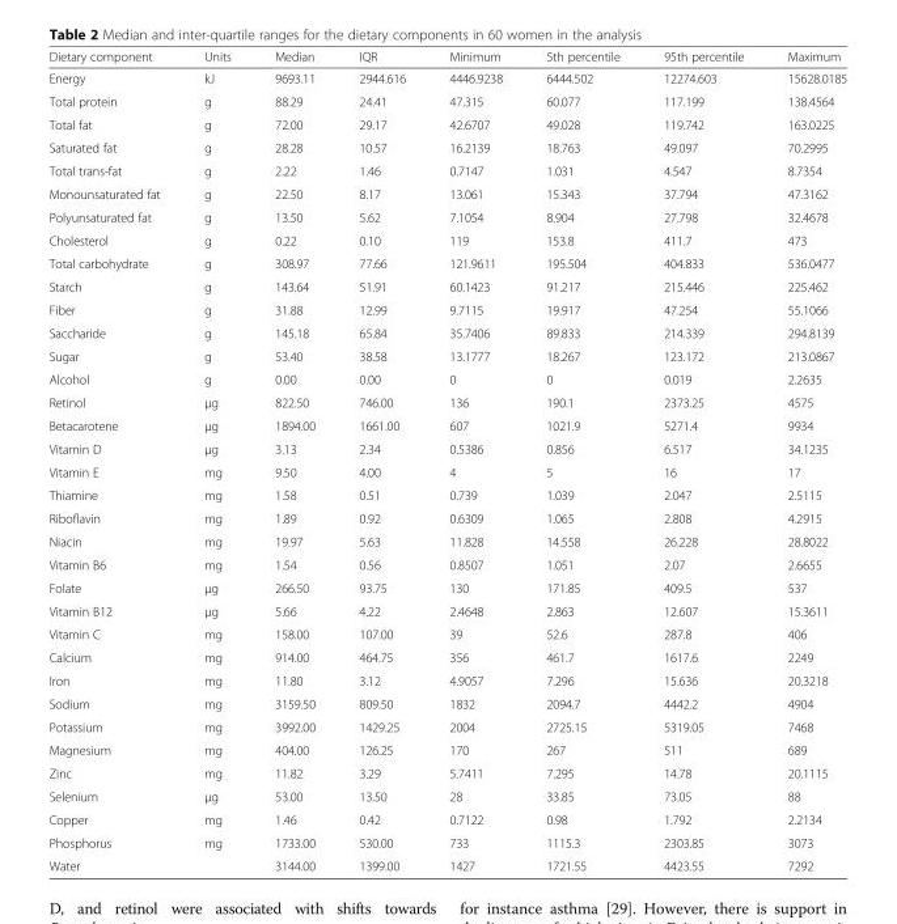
<table><thead><tr><td>Dietary component</td><td>Units</td><td>Median</td><td>IQR</td><td>Minimum</td><td>5th percentile</td><td>95th percentile</td><td>Maximum</td></tr></thead><tbody><tr><td>Energy</td><td>kJ</td><td>9693.11</td><td>2944.616</td><td>4446.9238</td><td>6444.502</td><td>12274.603</td><td>15628.0185</td></tr><tr><td>Total protein</td><td>g</td><td>88.29</td><td>24.41</td><td>47.315</td><td>60.077</td><td>117.199</td><td>138.4564</td></tr><tr><td>Total fat</td><td>g</td><td>72.00</td><td>29.17</td><td>42.6707</td><td>49.028</td><td>119.742</td><td>163.0225</td></tr><tr><td>Saturated fat</td><td>g</td><td>28.28</td><td>10.57</td><td>16.2139</td><td>18.763</td><td>49.097</td><td>70.2995</td></tr><tr><td>Total trans-fat</td><td>g</td><td>2.22</td><td>1.46</td><td>0.7147</td><td>1.031</td><td>4.547</td><td>8.7354</td></tr><tr><td>Monounsaturated fat</td><td>g</td><td>22.50</td><td>8.17</td><td>13.061</td><td>15.343</td><td>37.794</td><td>47.3162</td></tr><tr><td>Polyunsaturated fat</td><td>g</td><td>13.50</td><td>5.62</td><td>7.1054</td><td>8.904</td><td>27.798</td><td>32.4678</td></tr><tr><td>Cholesterol</td><td>g</td><td>0.22</td><td>0.10</td><td>119</td><td>153.8</td><td>411.7</td><td>473</td></tr><tr><td>Total carbohydrate</td><td>g</td><td>308.97</td><td>77.66</td><td>121.9611</td><td>195.504</td><td>404.833</td><td>536.0477</td></tr><tr><td>Starch</td><td>g</td><td>143.64</td><td>51.91</td><td>60.1423</td><td>91.217</td><td>215.446</td><td>225.462</td></tr><tr><td>Fiber</td><td>g</td><td>31.88</td><td>12.99</td><td>9.7115</td><td>19.917</td><td>47.254</td><td>55.1066</td></tr><tr><td>Saccharide</td><td>g</td><td>145.18</td><td>65.84</td><td>35.7406</td><td>89.833</td><td>214.339</td><td>294.8139</td></tr><tr><td>Sugar</td><td>g</td><td>53.40</td><td>38.58</td><td>13.1777</td><td>18.267</td><td>123.172</td><td>213.0867</td></tr><tr><td>Alcohol</td><td>g</td><td>0.00</td><td>0.00</td><td>0</td><td>0</td><td>0.019</td><td>2.2635</td></tr><tr><td>Retinol</td><td>μg</td><td>822.50</td><td>746.00</td><td>136</td><td>190.1</td><td>2373.25</td><td>4575</td></tr><tr><td>Betacarotene</td><td>μg</td><td>1894.00</td><td>1661.00</td><td>607</td><td>1021.9</td><td>5271.4</td><td>9934</td></tr><tr><td>Vitamin D</td><td>μg</td><td>3.13</td><td>2.34</td><td>0.5386</td><td>0.856</td><td>6.517</td><td>34.1235</td></tr><tr><td>Vitamin E</td><td>mg</td><td>9.50</td><td>4.00</td><td>4</td><td>5</td><td>16</td><td>17</td></tr><tr><td>Thiamine</td><td>mg</td><td>1.58</td><td>0.51</td><td>0.739</td><td>1.039</td><td>2.047</td><td>2.5115</td></tr><tr><td>Riboflavin</td><td>mg</td><td>1.89</td><td>0.92</td><td>0.6309</td><td>1.065</td><td>2.808</td><td>4.2915</td></tr><tr><td>Niacin</td><td>mg</td><td>19.97</td><td>5.63</td><td>11.828</td><td>14.558</td><td>26.228</td><td>28.8022</td></tr><tr><td>Vitamin B6</td><td>mg</td><td>1.54</td><td>0.56</td><td>0.8507</td><td>1.051</td><td>2.07</td><td>2.6655</td></tr><tr><td>Folate</td><td>μg</td><td>266.50</td><td>93.75</td><td>130</td><td>171.85</td><td>409.5</td><td>537</td></tr><tr><td>Vitamin B12</td><td>μg</td><td>5.66</td><td>4.22</td><td>2.4648</td><td>2.863</td><td>12.607</td><td>15.3611</td></tr><tr><td>Vitamin C</td><td>mg</td><td>158.00</td><td>107.00</td><td>39</td><td>52.6</td><td>287.8</td><td>406</td></tr><tr><td>Calcium</td><td>mg</td><td>914.00</td><td>464.75</td><td>356</td><td>461.7</td><td>1617.6</td><td>2249</td></tr><tr><td>Iron</td><td>mg</td><td>11.80</td><td>3.12</td><td>4.9057</td><td>7.296</td><td>15.636</td><td>20.3218</td></tr><tr><td>Sodium</td><td>mg</td><td>3159.50</td><td>809.50</td><td>1832</td><td>2094.7</td><td>4442.2</td><td>4904</td></tr><tr><td>Potassium</td><td>mg</td><td>3992.00</td><td>1429.25</td><td>2004</td><td>2725.15</td><td>5319.05</td><td>7468</td></tr><tr><td>Magnesium</td><td>mg</td><td>404.00</td><td>126.25</td><td>170</td><td>267</td><td>511</td><td>689</td></tr><tr><td>Zinc</td><td>mg</td><td>11.82</td><td>3.29</td><td>5.7411</td><td>7.295</td><td>14.78</td><td>20.1115</td></tr><tr><td>Selenium</td><td>μg</td><td>53.00</td><td>13.50</td><td>28</td><td>33.85</td><td>73.05</td><td>88</td></tr><tr><td>Copper</td><td>mg</td><td>1.46</td><td>0.42</td><td>0.7122</td><td>0.98</td><td>1.792</td><td>2.2134</td></tr><tr><td>Phosphorus</td><td>mg</td><td>1733.00</td><td>530.00</td><td>733</td><td>1115.3</td><td>2303.85</td><td>3073</td></tr><tr><td>Water</td><td></td><td>3144.00</td><td>1399.00</td><td>1427</td><td>1721.55</td><td>4423.55</td><td>7292</td></tr></tbody></table>